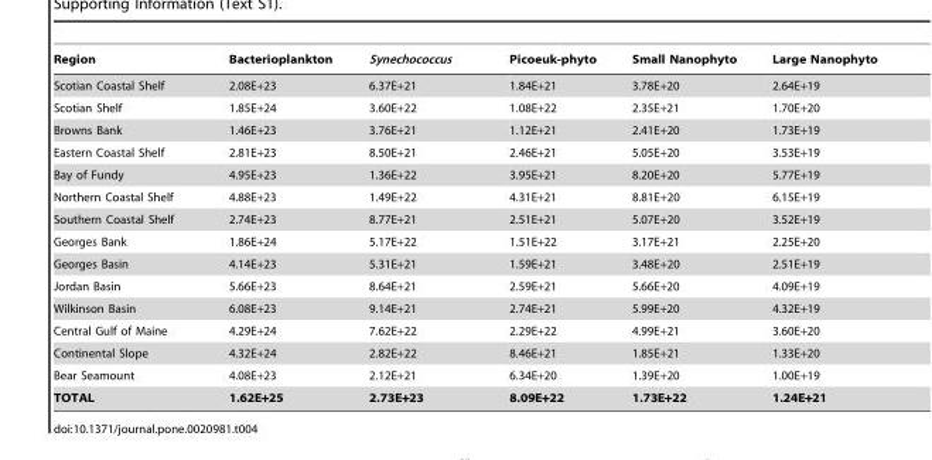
<table><thead><tr><td>Region</td><td>Bacterioplankton</td><td>Synechococcus</td><td>Picoeuk-phyto</td><td>Small Nanophyto</td><td>Large Nanophyto</td></tr></thead><tbody><tr><td>Scotian Coastal Shelf</td><td>2.08E+23</td><td>6.37E+21</td><td>1.84E+21</td><td>3.78E+20</td><td>2.64E+19</td></tr><tr><td>Scotian Shelf</td><td>1.85E+24</td><td>3.60E+22</td><td>1.08E+22</td><td>2.35E+21</td><td>1.70E+20</td></tr><tr><td>Browns Bank</td><td>1.46E+23</td><td>3.76E+21</td><td>1.12E+21</td><td>2.41E+20</td><td>1.73E+19</td></tr><tr><td>Eastern Coastal Shelf</td><td>2.81E+23</td><td>8.50E+21</td><td>2.46E+21</td><td>5.05E+20</td><td>3.53E+19</td></tr><tr><td>Bay of Fundy</td><td>4.95E+23</td><td>1.36E+22</td><td>3.95E+21</td><td>8.20E+20</td><td>5.77E+19</td></tr><tr><td>Northern Coastal Shelf</td><td>4.88E+23</td><td>1.49E+22</td><td>4.31E+21</td><td>8.81E+20</td><td>6.15E+19</td></tr><tr><td>Southern Coastal Shelf</td><td>2.74E+23</td><td>8.77E+21</td><td>2.51E+21</td><td>5.07E+20</td><td>3.52E+19</td></tr><tr><td>Georges Bank</td><td>1.86E+24</td><td>5.17E+22</td><td>1.51E+22</td><td>3.17E+21</td><td>2.25E+20</td></tr><tr><td>Georges Basin</td><td>4.14E+23</td><td>5.31E+21</td><td>1.59E+21</td><td>3.48E+20</td><td>2.51E+19</td></tr><tr><td>Jordan Basin</td><td>5.66E+23</td><td>8.64E+21</td><td>2.59E+21</td><td>5.66E+20</td><td>4.09E+19</td></tr><tr><td>Wilkinson Basin</td><td>6.08E+23</td><td>9.14E+21</td><td>2.74E+21</td><td>5.99E+20</td><td>4.32E+19</td></tr><tr><td>Central Gulf of Maine</td><td>4.29E+24</td><td>7.62E+22</td><td>2.29E+22</td><td>4.99E+21</td><td>3.60E+20</td></tr><tr><td>Continental Slope</td><td>4.32E+24</td><td>2.82E+22</td><td>8.46E+21</td><td>1.85E+21</td><td>1.33E+20</td></tr><tr><td>Bear Seamount</td><td>4.08E+23</td><td>2.12E+21</td><td>6.34E+20</td><td>1.39E+20</td><td>1.00E+19</td></tr><tr><td>TOTAL</td><td>1.62E+25</td><td>2.73E+23</td><td>8.09E+22</td><td>1.73E+22</td><td>1.24E+21</td></tr></tbody></table>